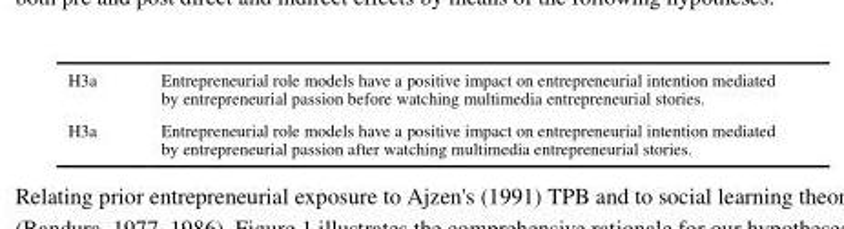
<table><tbody><tr><td>H3a</td><td>Entrepreneurial role models have a positive impact on entrepreneurial intention mediated by entrepreneurial passion before watching multimedia entrepreneurial stories.</td></tr><tr><td>H3a</td><td>Entrepreneurial role models have a positive impact on entrepreneurial intention mediated by entrepreneurial passion after watching multimedia entrepreneurial stories.</td></tr></tbody></table>